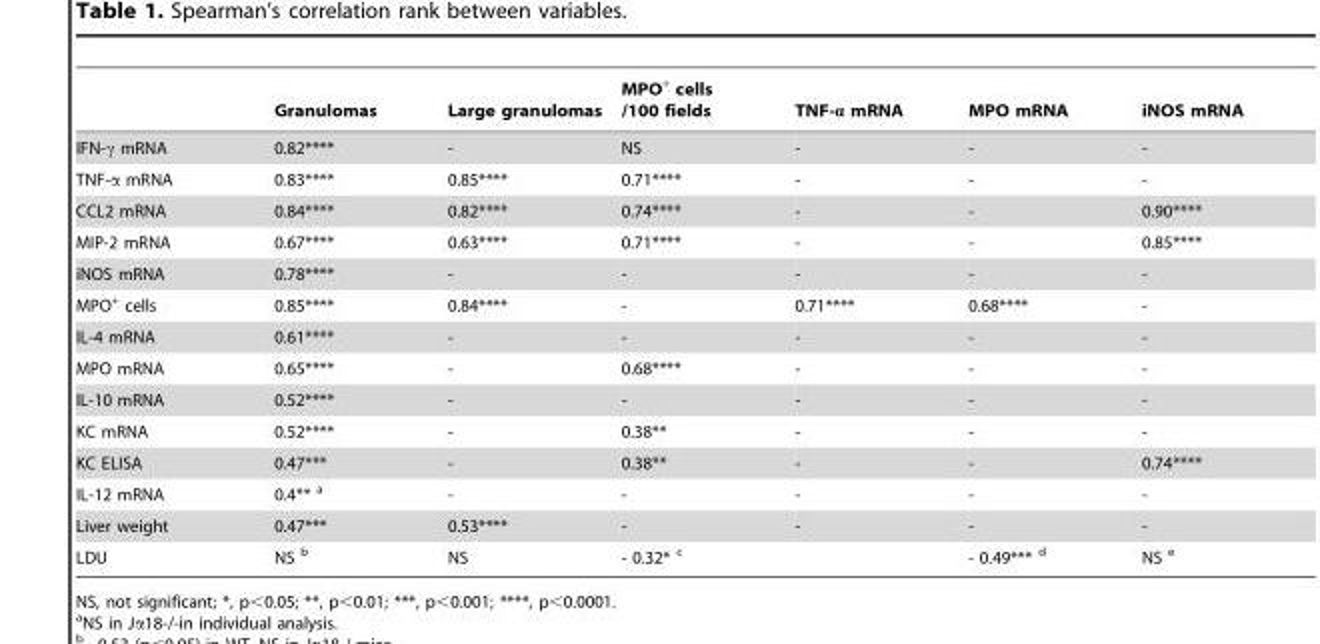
<table><thead><tr><td></td><td>Granulomas</td><td>Large granulomas</td><td>MPO<sup>+</sup> cells /100 fields</td><td>TNF-α mRNA</td><td>MPO mRNA</td><td>iNOS mRNA</td></tr></thead><tbody><tr><td>IFN-γ mRNA</td><td>0.82****</td><td>-</td><td>NS</td><td>-</td><td>-</td><td>-</td></tr><tr><td>TNF-α mRNA</td><td>0.83****</td><td>0.85****</td><td>0.71****</td><td>-</td><td>-</td><td>-</td></tr><tr><td>CCL2 mRNA</td><td>0.84****</td><td>0.82****</td><td>0.74****</td><td>-</td><td>-</td><td>0.90****</td></tr><tr><td>MIP-2 mRNA</td><td>0.67****</td><td>0.63****</td><td>0.71****</td><td>-</td><td>-</td><td>0.85****</td></tr><tr><td>iNOS mRNA</td><td>0.78****</td><td>-</td><td>-</td><td>-</td><td>-</td><td>-</td></tr><tr><td>MPO<sup>+</sup> cells</td><td>0.85****</td><td>0.84****</td><td>-</td><td>0.71****</td><td>0.68****</td><td>-</td></tr><tr><td>IL-4 mRNA</td><td>0.61****</td><td>-</td><td>-</td><td>-</td><td>-</td><td>-</td></tr><tr><td>MPO mRNA</td><td>0.65****</td><td>-</td><td>0.68****</td><td>-</td><td>-</td><td>-</td></tr><tr><td>IL-10 mRNA</td><td>0.52****</td><td>-</td><td>-</td><td>-</td><td>-</td><td>-</td></tr><tr><td>KC mRNA</td><td>0.52****</td><td>-</td><td>0.38**</td><td>-</td><td>-</td><td>-</td></tr><tr><td>KC ELISA</td><td>0.47***</td><td>-</td><td>0.38**</td><td>-</td><td>-</td><td>0.74****</td></tr><tr><td>IL-12 mRNA</td><td>0.4** a</td><td>-</td><td>-</td><td>-</td><td>-</td><td>-</td></tr><tr><td>Liver weight</td><td>0.47***</td><td>0.53****</td><td>-</td><td>-</td><td>-</td><td>-</td></tr><tr><td>LDU</td><td>NS b</td><td>NS</td><td>- 0.32* c</td><td></td><td>- 0.49*** d</td><td>NS e</td></tr></tbody></table>